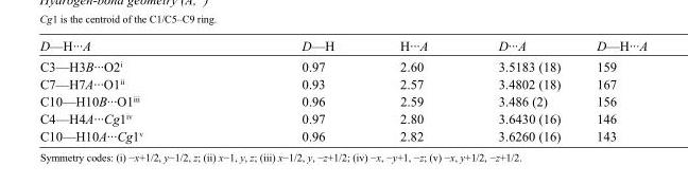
<table><tbody><tr><td>D—H···A</td><td>D—H</td><td>H···A</td><td>D···A</td><td>D—H···A</td></tr><tr><td>C3—H3B···O2<sup>i</sup></td><td>0.97</td><td>2.60</td><td>3.5183 (18)</td><td>159</td></tr><tr><td>C7—H7A···O1<sup>ii</sup></td><td>0.93</td><td>2.57</td><td>3.4802 (18)</td><td>167</td></tr><tr><td>C10—H10B···O1<sup>iii</sup></td><td>0.96</td><td>2.59</td><td>3.486 (2)</td><td>156</td></tr><tr><td>C4—H4A···Cg1<sup>iv</sup></td><td>0.97</td><td>2.80</td><td>3.6430 (16)</td><td>146</td></tr><tr><td>C10—H10A···Cg1<sup>v</sup></td><td>0.96</td><td>2.82</td><td>3.6260 (16)</td><td>143</td></tr></tbody></table>